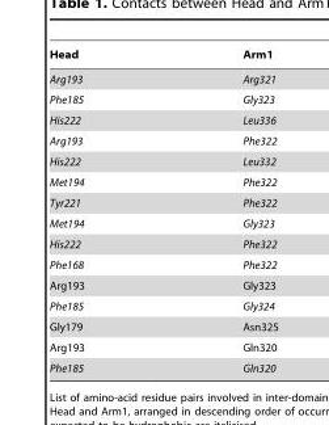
<table><thead><tr><td>Head</td><td>Arm1</td></tr></thead><tbody><tr><td>Arg193</td><td>Arg321</td></tr><tr><td>Phe185</td><td>Gly323</td></tr><tr><td>His222</td><td>Leu336</td></tr><tr><td>Arg193</td><td>Phe322</td></tr><tr><td>His222</td><td>Leu332</td></tr><tr><td>Met194</td><td>Phe322</td></tr><tr><td>Tyr221</td><td>Phe322</td></tr><tr><td>Met194</td><td>Gly323</td></tr><tr><td>His222</td><td>Phe322</td></tr><tr><td>Phe168</td><td>Phe322</td></tr><tr><td>Arg193</td><td>Gly323</td></tr><tr><td>Phe185</td><td>Gly324</td></tr><tr><td>Gly179</td><td>Asn325</td></tr><tr><td>Arg193</td><td>Gln320</td></tr><tr><td>Phe185</td><td>Gln320</td></tr></tbody></table>